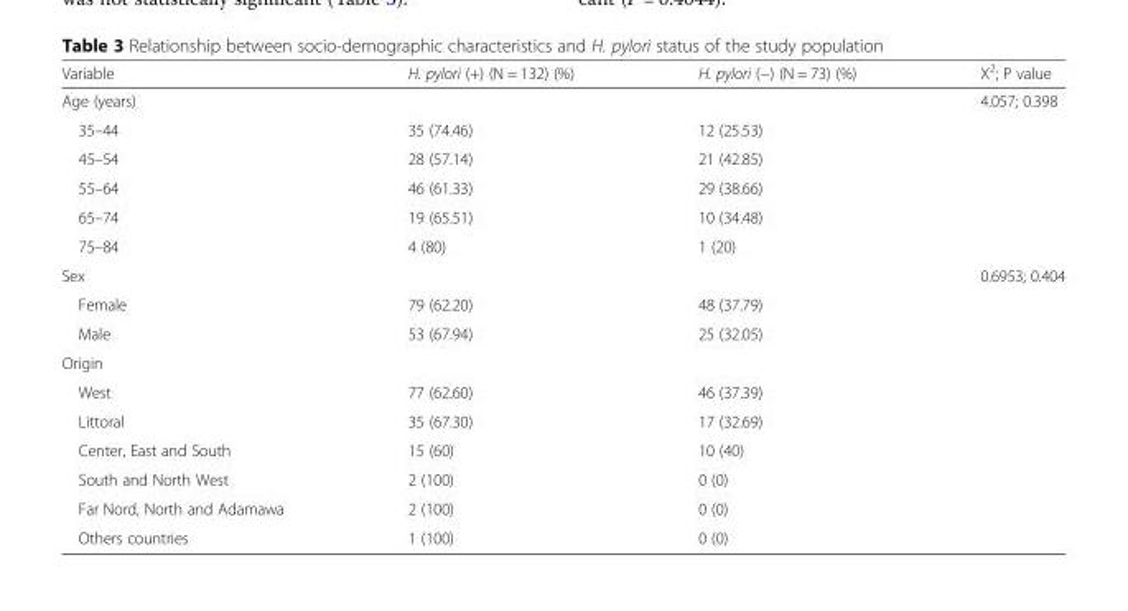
<table><thead><tr><td>Variable</td><td>H. pylori (+) (N = 132) (%)</td><td>H. pylori (−) (N = 73) (%)</td><td>X<sup>2</sup>; P value</td></tr></thead><tbody><tr><td colspan="3">Age (years)</td><td rowspan="6">4.057; 0.398</td></tr><tr><td>35–44</td><td>35 (74.46)</td><td>12 (25.53)</td></tr><tr><td>45–54</td><td>28 (57.14)</td><td>21 (42.85)</td></tr><tr><td>55–64</td><td>46 (61.33)</td><td>29 (38.66)</td></tr><tr><td>65–74</td><td>19 (65.51)</td><td>10 (34.48)</td></tr><tr><td>75–84</td><td>4 (80)</td><td>1 (20)</td></tr><tr><td colspan="3">Sex</td><td rowspan="3">0.6953; 0.404</td></tr><tr><td>Female</td><td>79 (62.20)</td><td>48 (37.79)</td></tr><tr><td>Male</td><td>53 (67.94)</td><td>25 (32.05)</td></tr><tr><td colspan="3">Origin</td><td rowspan="7"></td></tr><tr><td>West</td><td>77 (62.60)</td><td>46 (37.39)</td></tr><tr><td>Littoral</td><td>35 (67.30)</td><td>17 (32.69)</td></tr><tr><td>Center, East and South</td><td>15 (60)</td><td>10 (40)</td></tr><tr><td>South and North West</td><td>2 (100)</td><td>0 (0)</td></tr><tr><td>Far Nord, North and Adamawa</td><td>2 (100)</td><td>0 (0)</td></tr><tr><td>Others countries</td><td>1 (100)</td><td>0 (0)</td></tr></tbody></table>